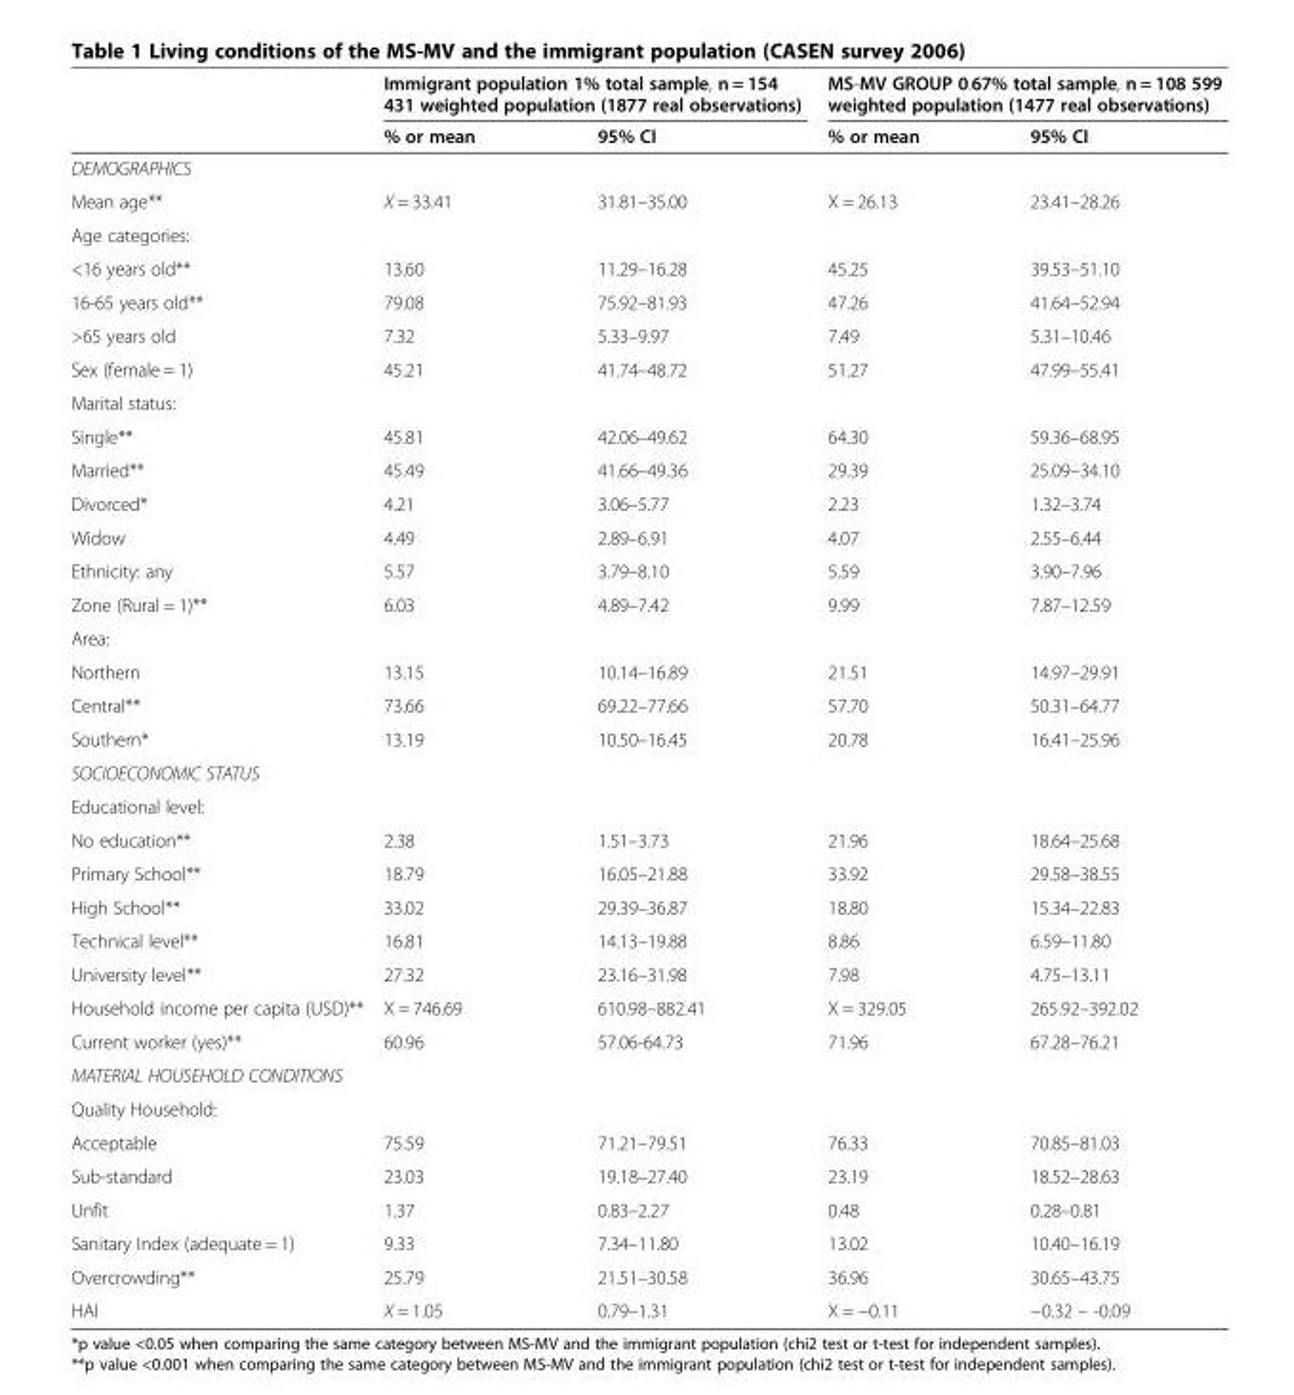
<table><thead><tr><td rowspan="2"></td><td colspan="2">Immigrant population 1% total sample, n = 154 431 weighted population (1877 real observations)</td><td colspan="2">MS-MV GROUP 0.67% total sample, n = 108 599 weighted population (1477 real observations)</td></tr><tr><td>% or mean</td><td>95% CI</td><td>% or mean</td><td>95% CI</td></tr></thead><tbody><tr><td colspan="5">DEMOGRAPHICS</td></tr><tr><td>Mean age**</td><td>X = 33.41</td><td>31.81–35.00</td><td>X = 26.13</td><td>23.41–28.26</td></tr><tr><td colspan="5">Age categories:</td></tr><tr><td>&lt;16 years old**</td><td>13.60</td><td>11.29–16.28</td><td>45.25</td><td>39.53–51.10</td></tr><tr><td>16-65 years old**</td><td>79.08</td><td>75.92–81.93</td><td>47.26</td><td>41.64–52.94</td></tr><tr><td>&gt;65 years old</td><td>7.32</td><td>5.33–9.97</td><td>7.49</td><td>5.31–10.46</td></tr><tr><td>Sex (female = 1)</td><td>45.21</td><td>41.74–48.72</td><td>51.27</td><td>47.99–55.41</td></tr><tr><td colspan="5">Marital status:</td></tr><tr><td>Single**</td><td>45.81</td><td>42.06–49.62</td><td>64.30</td><td>59.36–68.95</td></tr><tr><td>Married**</td><td>45.49</td><td>41.66–49.36</td><td>29.39</td><td>25.09–34.10</td></tr><tr><td>Divorced*</td><td>4.21</td><td>3.06–5.77</td><td>2.23</td><td>1.32–3.74</td></tr><tr><td>Widow</td><td>4.49</td><td>2.89–6.91</td><td>4.07</td><td>2.55–6.44</td></tr><tr><td>Ethnicity: any</td><td>5.57</td><td>3.79–8.10</td><td>5.59</td><td>3.90–7.96</td></tr><tr><td>Zone (Rural = 1)**</td><td>6.03</td><td>4.89–7.42</td><td>9.99</td><td>7.87–12.59</td></tr><tr><td colspan="5">Area:</td></tr><tr><td>Northern</td><td>13.15</td><td>10.14–16.89</td><td>21.51</td><td>14.97–29.91</td></tr><tr><td>Central**</td><td>73.66</td><td>69.22–77.66</td><td>57.70</td><td>50.31–64.77</td></tr><tr><td>Southern*</td><td>13.19</td><td>10.50–16.45</td><td>20.78</td><td>16.41–25.96</td></tr><tr><td colspan="5">SOCIOECONOMIC STATUS</td></tr><tr><td colspan="5">Educational level:</td></tr><tr><td>No education**</td><td>2.38</td><td>1.51–3.73</td><td>21.96</td><td>18.64–25.68</td></tr><tr><td>Primary School**</td><td>18.79</td><td>16.05–21.88</td><td>33.92</td><td>29.58–38.55</td></tr><tr><td>High School**</td><td>33.02</td><td>29.39–36.87</td><td>18.80</td><td>15.34–22.83</td></tr><tr><td>Technical level**</td><td>16.81</td><td>14.13–19.88</td><td>8.86</td><td>6.59–11.80</td></tr><tr><td>University level**</td><td>27.32</td><td>23.16–31.98</td><td>7.98</td><td>4.75–13.11</td></tr><tr><td>Household income per capita (USD)**</td><td>X = 746.69</td><td>610.98–882.41</td><td>X = 329.05</td><td>265.92–392.02</td></tr><tr><td>Current worker (yes)**</td><td>60.96</td><td>57.06-64.73</td><td>71.96</td><td>67.28–76.21</td></tr><tr><td colspan="5">MATERIAL HOUSEHOLD CONDITIONS</td></tr><tr><td colspan="5">Quality Household:</td></tr><tr><td>Acceptable</td><td>75.59</td><td>71.21–79.51</td><td>76.33</td><td>70.85–81.03</td></tr><tr><td>Sub-standard</td><td>23.03</td><td>19.18–27.40</td><td>23.19</td><td>18.52–28.63</td></tr><tr><td>Unfit</td><td>1.37</td><td>0.83–2.27</td><td>0.48</td><td>0.28–0.81</td></tr><tr><td>Sanitary Index (adequate = 1)</td><td>9.33</td><td>7.34–11.80</td><td>13.02</td><td>10.40–16.19</td></tr><tr><td>Overcrowding**</td><td>25.79</td><td>21.51–30.58</td><td>36.96</td><td>30.65–43.75</td></tr><tr><td>HAI</td><td>X = 1.05</td><td>0.79–1.31</td><td>X = −0.11</td><td>−0.32 – -0.09</td></tr></tbody></table>